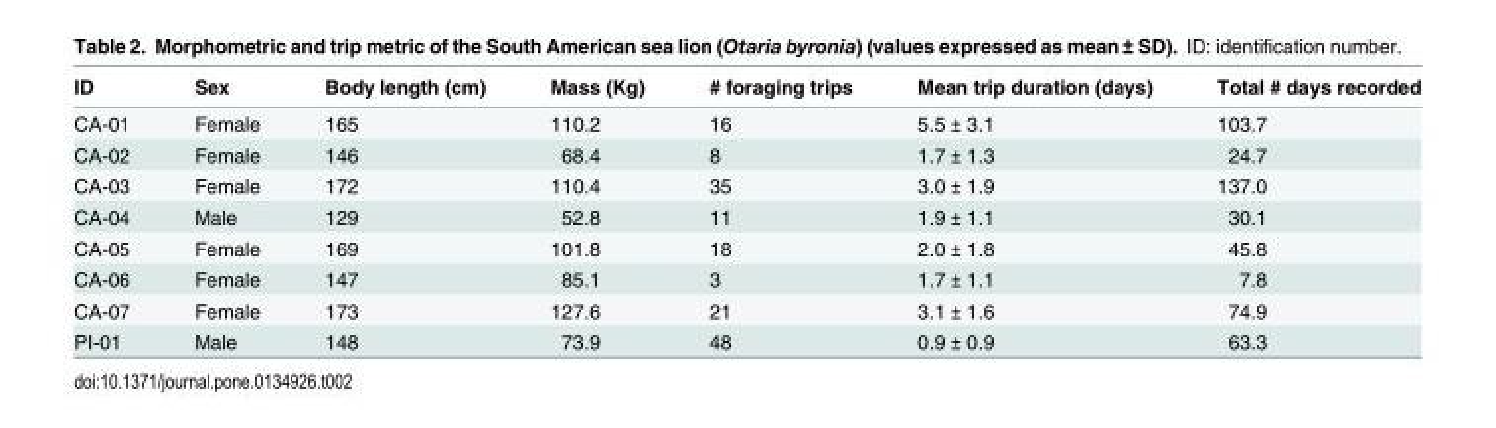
<table><thead><tr><td>ID</td><td>Sex</td><td>Body length (cm)</td><td>Mass (Kg)</td><td># foraging trips</td><td>Mean trip duration (days)</td><td>Total # days recorded</td></tr></thead><tbody><tr><td>CA-01</td><td>Female</td><td>165</td><td>110.2</td><td>16</td><td>5.5 ± 3.1</td><td>103.7</td></tr><tr><td>CA-02</td><td>Female</td><td>146</td><td>68.4</td><td>8</td><td>1.7 ± 1.3</td><td>24.7</td></tr><tr><td>CA-03</td><td>Female</td><td>172</td><td>110.4</td><td>35</td><td>3.0 ± 1.9</td><td>137.0</td></tr><tr><td>CA-04</td><td>Male</td><td>129</td><td>52.8</td><td>11</td><td>1.9 ± 1.1</td><td>30.1</td></tr><tr><td>CA-05</td><td>Female</td><td>169</td><td>101.8</td><td>18</td><td>2.0 ± 1.8</td><td>45.8</td></tr><tr><td>CA-06</td><td>Female</td><td>147</td><td>85.1</td><td>3</td><td>1.7 ± 1.1</td><td>7.8</td></tr><tr><td>CA-07</td><td>Female</td><td>173</td><td>127.6</td><td>21</td><td>3.1 ± 1.6</td><td>74.9</td></tr><tr><td>PI-01</td><td>Male</td><td>148</td><td>73.9</td><td>48</td><td>0.9 ± 0.9</td><td>63.3</td></tr></tbody></table>